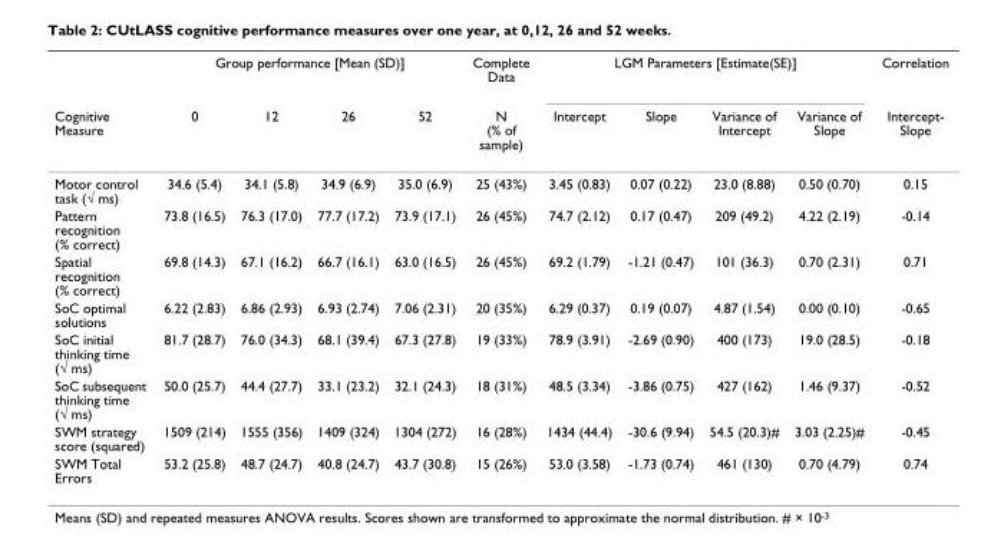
<table><thead><tr><td rowspan="2">Cognitive Measure</td><td colspan="4">Group performance [Mean (SD)]</td><td rowspan="2">Complete Data N (% of sample)</td><td colspan="4">LGM Parameters [Estimate(SE)]</td><td rowspan="2">Correlation Intercept- Slope</td></tr><tr><td>0</td><td>12</td><td>26</td><td>52</td><td>Intercept</td><td>Slope</td><td>Variance of Intercept</td><td>Variance of Slope</td></tr></thead><tbody><tr><td>Motor control task (√ ms)</td><td>34.6 (5.4)</td><td>34.1 (5.8)</td><td>34.9 (6.9)</td><td>35.0 (6.9)</td><td>25 (43%)</td><td>3.45 (0.83)</td><td>0.07 (0.22)</td><td>23.0 (8.88)</td><td>0.50 (0.70)</td><td>0.15</td></tr><tr><td>Pattern recognition (% correct)</td><td>73.8 (16.5)</td><td>76.3 (17.0)</td><td>77.7 (17.2)</td><td>73.9 (17.1)</td><td>26 (45%)</td><td>74.7 (2.12)</td><td>0.17 (0.47)</td><td>209 (49.2)</td><td>4.22 (2.19)</td><td>-0.14</td></tr><tr><td>Spatial recognition (% correct)</td><td>69.8 (14.3)</td><td>67.1 (16.2)</td><td>66.7 (16.1)</td><td>63.0 (16.5)</td><td>26 (45%)</td><td>69.2 (1.79)</td><td>-1.21 (0.47)</td><td>101 (36.3)</td><td>0.70 (2.31)</td><td>0.71</td></tr><tr><td>SoC optimal solutions</td><td>6.22 (2.83)</td><td>6.86 (2.93)</td><td>6.93 (2.74)</td><td>7.06 (2.31)</td><td>20 (35%)</td><td>6.29 (0.37)</td><td>0.19 (0.07)</td><td>4.87 (1.54)</td><td>0.00 (0.10)</td><td>-0.65</td></tr><tr><td>SoC initial thinking time (√ ms)</td><td>81.7 (28.7)</td><td>76.0 (34.3)</td><td>68.1 (39.4)</td><td>67.3 (27.8)</td><td>19 (33%)</td><td>78.9 (3.91)</td><td>-2.69 (0.90)</td><td>400 (173)</td><td>19.0 (28.5)</td><td>-0.18</td></tr><tr><td>SoC subsequent thinking time (√ ms)</td><td>50.0 (25.7)</td><td>44.4 (27.7)</td><td>33.1 (23.2)</td><td>32.1 (24.3)</td><td>18 (31%)</td><td>48.5 (3.34)</td><td>-3.86 (0.75)</td><td>427 (162)</td><td>1.46 (9.37)</td><td>-0.52</td></tr><tr><td>SWM strategy score (squared)</td><td>1509 (214)</td><td>1555 (356)</td><td>1409 (324)</td><td>1304 (272)</td><td>16 (28%)</td><td>1434 (44.4)</td><td>-30.6 (9.94)</td><td>54.5 (20.3)#</td><td>3.03 (2.25)#</td><td>-0.45</td></tr><tr><td>SWM Total Errors</td><td>53.2 (25.8)</td><td>48.7 (24.7)</td><td>40.8 (24.7)</td><td>43.7 (30.8)</td><td>15 (26%)</td><td>53.0 (3.58)</td><td>-1.73 (0.74)</td><td>461 (130)</td><td>0.70 (4.79)</td><td>0.74</td></tr></tbody></table>